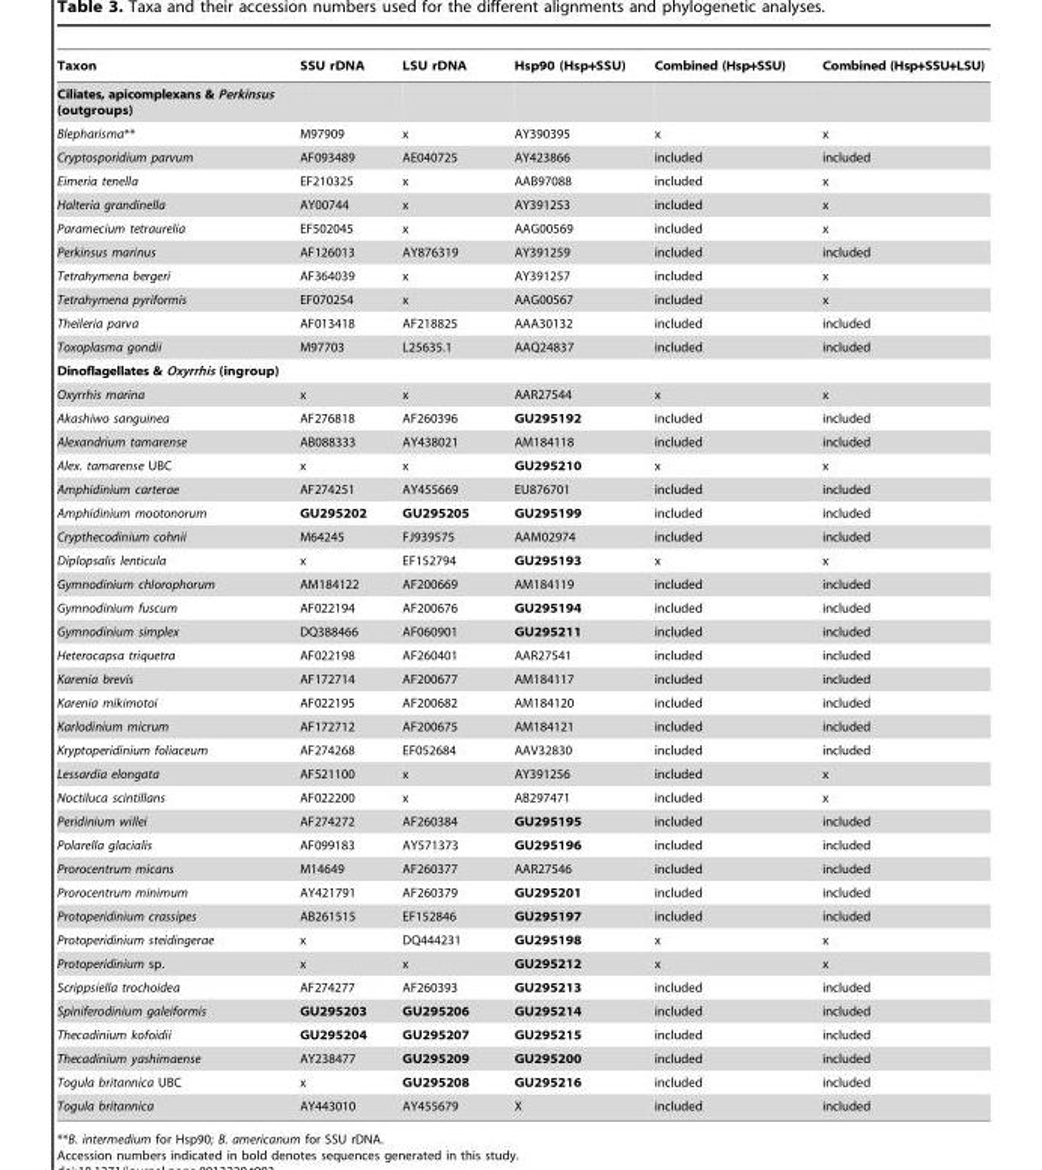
<table><thead><tr><td>Taxon</td><td>SSU rDNA</td><td>LSU rDNA</td><td>Hsp90 (Hsp+SSU)</td><td>Combined (Hsp+SSU)</td><td>Combined (Hsp+SSU+LSU)</td></tr></thead><tbody><tr><td colspan="6">Ciliates, apicomplexans &amp; Perkinsus (outgroups)</td></tr><tr><td>Blepharisma**</td><td>M97909</td><td>x</td><td>AY390395</td><td>x</td><td>x</td></tr><tr><td>Cryptosporidium parvum</td><td>AF093489</td><td>AE040725</td><td>AY423866</td><td>included</td><td>included</td></tr><tr><td>Eimeria tenella</td><td>EF210325</td><td>x</td><td>AAB97088</td><td>included</td><td>x</td></tr><tr><td>Halteria grandinella</td><td>AY00744</td><td>x</td><td>AY391253</td><td>included</td><td>x</td></tr><tr><td>Paramecium tetraurelia</td><td>EF502045</td><td>x</td><td>AAG00569</td><td>included</td><td>x</td></tr><tr><td>Perkinsus marinus</td><td>AF126013</td><td>AY876319</td><td>AY391259</td><td>included</td><td>included</td></tr><tr><td>Tetrahymena bergeri</td><td>AF364039</td><td>x</td><td>AY391257</td><td>included</td><td>x</td></tr><tr><td>Tetrahymena pyriformis</td><td>EF070254</td><td>x</td><td>AAG00567</td><td>included</td><td>x</td></tr><tr><td>Theileria parva</td><td>AF013418</td><td>AF218825</td><td>AAA30132</td><td>included</td><td>included</td></tr><tr><td>Toxoplasma gondii</td><td>M97703</td><td>L25635.1</td><td>AAQ24837</td><td>included</td><td>included</td></tr><tr><td colspan="6">Dinoflagellates &amp; Oxyrrhis (ingroup)</td></tr><tr><td>Oxyrrhis marina</td><td>x</td><td>x</td><td>AAR27544</td><td>x</td><td>x</td></tr><tr><td>Akashiwo sanguinea</td><td>AF276818</td><td>AF260396</td><td>GU295192</td><td>included</td><td>included</td></tr><tr><td>Alexandrium tamarense</td><td>AB088333</td><td>AY438021</td><td>AM184118</td><td>included</td><td>included</td></tr><tr><td>Alex. tamarense UBC</td><td>x</td><td>x</td><td>GU295210</td><td>x</td><td>x</td></tr><tr><td>Amphidinium carterae</td><td>AF274251</td><td>AY455669</td><td>EU876701</td><td>included</td><td>included</td></tr><tr><td>Amphidinium mootonorum</td><td>GU295202</td><td>GU295205</td><td>GU295199</td><td>included</td><td>included</td></tr><tr><td>Crypthecodinium cohnii</td><td>M64245</td><td>FJ939575</td><td>AAM02974</td><td>included</td><td>included</td></tr><tr><td>Diplopsalis lenticula</td><td>x</td><td>EF152794</td><td>GU295193</td><td>x</td><td>x</td></tr><tr><td>Gymnodinium chlorophorum</td><td>AM184122</td><td>AF200669</td><td>AM184119</td><td>included</td><td>included</td></tr><tr><td>Gymnodinium fuscum</td><td>AF022194</td><td>AF200676</td><td>GU295194</td><td>included</td><td>included</td></tr><tr><td>Gymnodinium simplex</td><td>DQ388466</td><td>AF060901</td><td>GU295211</td><td>included</td><td>included</td></tr><tr><td>Heterocapsa triquetra</td><td>AF022198</td><td>AF260401</td><td>AAR27541</td><td>included</td><td>included</td></tr><tr><td>Karenia brevis</td><td>AF172714</td><td>AF200677</td><td>AM184117</td><td>included</td><td>included</td></tr><tr><td>Karenia mikimotoi</td><td>AF022195</td><td>AF200682</td><td>AM184120</td><td>included</td><td>included</td></tr><tr><td>Karlodinium micrum</td><td>AF172712</td><td>AF200675</td><td>AM184121</td><td>included</td><td>included</td></tr><tr><td>Kryptoperidinium foliaceum</td><td>AF274268</td><td>EF052684</td><td>AAV32830</td><td>included</td><td>included</td></tr><tr><td>Lessardia elongata</td><td>AF521100</td><td>x</td><td>AY391256</td><td>included</td><td>x</td></tr><tr><td>Noctiluca scintillans</td><td>AF022200</td><td>x</td><td>AB297471</td><td>included</td><td>x</td></tr><tr><td>Peridinium willei</td><td>AF274272</td><td>AF260384</td><td>GU295195</td><td>included</td><td>included</td></tr><tr><td>Polarella glacialis</td><td>AF099183</td><td>AY571373</td><td>GU295196</td><td>included</td><td>included</td></tr><tr><td>Prorocentrum micans</td><td>M14649</td><td>AF260377</td><td>AAR27546</td><td>included</td><td>included</td></tr><tr><td>Prorocentrum minimum</td><td>AY421791</td><td>AF260379</td><td>GU295201</td><td>included</td><td>included</td></tr><tr><td>Protoperidinium crassipes</td><td>AB261515</td><td>EF152846</td><td>GU295197</td><td>included</td><td>included</td></tr><tr><td>Protoperidinium steidingerae</td><td>x</td><td>DQ444231</td><td>GU295198</td><td>x</td><td>x</td></tr><tr><td>Protoperidinium sp.</td><td>x</td><td>x</td><td>GU295212</td><td>x</td><td>x</td></tr><tr><td>Scrippsiella trochoidea</td><td>AF274277</td><td>AF260393</td><td>GU295213</td><td>included</td><td>included</td></tr><tr><td>Spiniferodinium galeiformis</td><td>GU295203</td><td>GU295206</td><td>GU295214</td><td>included</td><td>included</td></tr><tr><td>Thecadinium kofoidii</td><td>GU295204</td><td>GU295207</td><td>GU295215</td><td>included</td><td>included</td></tr><tr><td>Thecadinium yashimaense</td><td>AY238477</td><td>GU295209</td><td>GU295200</td><td>included</td><td>included</td></tr><tr><td>Togula britannica UBC</td><td>x</td><td>GU295208</td><td>GU295216</td><td>included</td><td>included</td></tr><tr><td>Togula britannica</td><td>AY443010</td><td>AY455679</td><td>X</td><td>included</td><td>included</td></tr></tbody></table>